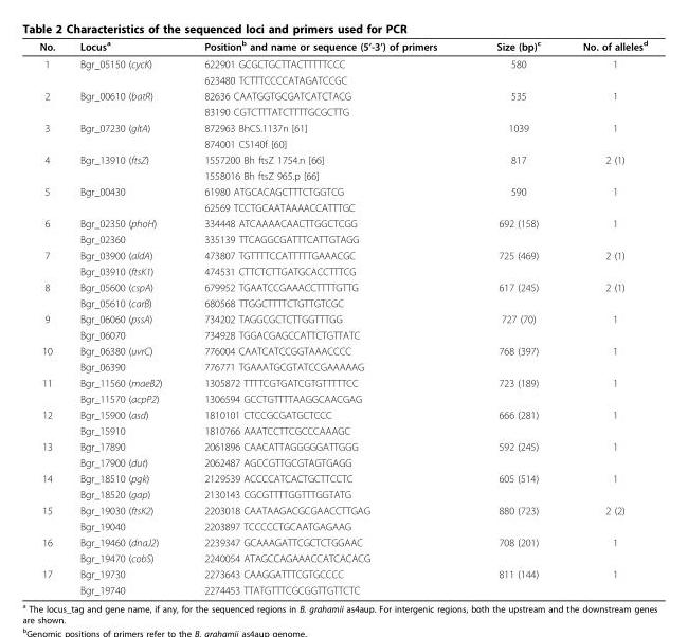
<table><thead><tr><td>No.</td><td>Locus<sup>a</sup></td><td>Position<sup>b</sup> and name or sequence (5’-3’) of primers</td><td>Size (bp)<sup>c</sup></td><td>No. of alleles<sup>d</sup></td></tr></thead><tbody><tr><td rowspan="2">1</td><td>Bgr_05150 (cycK)</td><td>622901 GCGCTGCTTACTTTTTCCC</td><td>580</td><td>1</td></tr><tr><td></td><td>623480 TCTTTCCCCATAGATCCGC</td><td></td><td></td></tr><tr><td rowspan="2">2</td><td>Bgr_00610 (batR)</td><td>82636 CAATGGTGCGATCATCTACG</td><td>535</td><td>1</td></tr><tr><td></td><td>83190 CGTCTTTATCTTTTGCGCTTG</td><td></td><td></td></tr><tr><td rowspan="2">3</td><td>Bgr_07230 (gltA)</td><td>872963 BhCS.1137n [61]</td><td>1039</td><td>1</td></tr><tr><td></td><td>874001 CS140f [60]</td><td></td><td></td></tr><tr><td rowspan="2">4</td><td>Bgr_13910 (ftsZ)</td><td>1557200 Bh ftsZ 1754.n [66]</td><td>817</td><td>2 (1)</td></tr><tr><td></td><td>1558016 Bh ftsZ 965.p [66]</td><td></td><td></td></tr><tr><td rowspan="2">5</td><td>Bgr_00430</td><td>61980 ATGCACAGCTTTCTGGTCG</td><td>590</td><td>1</td></tr><tr><td></td><td>62569 TCCTGCAATAAAACCATTTGC</td><td></td><td></td></tr><tr><td rowspan="2">6</td><td>Bgr_02350 (phoH)</td><td>334448 ATCAAAACAACTTGGCTCGG</td><td>692 (158)</td><td>1</td></tr><tr><td>Bgr_02360</td><td>335139 TTCAGGCGATTTCATTGTAGG</td><td></td><td></td></tr><tr><td rowspan="2">7</td><td>Bgr_03900 (aldA)</td><td>473807 TGTTTTCCATTTTTGAAACGC</td><td>725 (469)</td><td>2 (1)</td></tr><tr><td>Bgr_03910 (ftsK1)</td><td>474531 CTTCTCTTGATGCACCTTTCG</td><td></td><td></td></tr><tr><td rowspan="2">8</td><td>Bgr_05600 (cspA)</td><td>679952 TGAATCCGAAACCTTTTGTTG</td><td>617 (245)</td><td>2 (1)</td></tr><tr><td>Bgr_05610 (carB)</td><td>680568 TTGGCTTTTCTGTTGTCGC</td><td></td><td></td></tr><tr><td rowspan="2">9</td><td>Bgr_06060 (pssA)</td><td>734202 TAGGCGCTCTTGGTTTGG</td><td>727 (70)</td><td>1</td></tr><tr><td>Bgr_06070</td><td>734928 TGGACGAGCCATTCTGTTATC</td><td></td><td></td></tr><tr><td rowspan="2">10</td><td>Bgr_06380 (uvrC)</td><td>776004 CAATCATCCGGTAAACCCC</td><td>768 (397)</td><td>1</td></tr><tr><td>Bgr_06390</td><td>776771 TGAAATGCGTATCCGAAAAAG</td><td></td><td></td></tr><tr><td rowspan="2">11</td><td>Bgr_11560 (maeB2)</td><td>1305872 TTTTCGTGATCGTGTTTTTCC</td><td>723 (189)</td><td>1</td></tr><tr><td>Bgr_11570 (acpP2)</td><td>1306594 GCCTGTTTTAAGGCAACGAG</td><td></td><td></td></tr><tr><td rowspan="2">12</td><td>Bgr_15900 (asd)</td><td>1810101 CTCCGCGATGCTCCC</td><td>666 (281)</td><td>1</td></tr><tr><td>Bgr_15910</td><td>1810766 AAATCCTTCGCCCAAAGC</td><td></td><td></td></tr><tr><td rowspan="2">13</td><td>Bgr_17890</td><td>2061896 CAACATTAGGGGGATTGGG</td><td>592 (245)</td><td>1</td></tr><tr><td>Bgr_17900 (dut)</td><td>2062487 AGCCGTTGCGTAGTGAGG</td><td></td><td></td></tr><tr><td rowspan="2">14</td><td>Bgr_18510 (pgk)</td><td>2129539 ACCCCATCACTGCTTCCTC</td><td>605 (514)</td><td>1</td></tr><tr><td>Bgr_18520 (gap)</td><td>2130143 CGCGTTTTGGTTTGGTATG</td><td></td><td></td></tr><tr><td rowspan="2">15</td><td>Bgr_19030 (ftsK2)</td><td>2203018 CAATAAGACGCGAACCTTGAG</td><td>880 (723)</td><td>2 (2)</td></tr><tr><td>Bgr_19040</td><td>2203897 TCCCCCTGCAATGAGAAG</td><td></td><td></td></tr><tr><td rowspan="2">16</td><td>Bgr_19460 (dnaJ2)</td><td>2239347 GCAAAGATTCGCTCTGGAAC</td><td>708 (201)</td><td>1</td></tr><tr><td>Bgr_19470 (cobS)</td><td>2240054 ATAGCCAGAAACCATCACACG</td><td></td><td></td></tr><tr><td rowspan="2">17</td><td>Bgr_19730</td><td>2273643 CAAGGATTTCGTGCCCC</td><td>811 (144)</td><td>1</td></tr><tr><td>Bgr_19740</td><td>2274453 TTATGTTTCGCGGTTGTTCTC</td><td></td><td></td></tr></tbody></table>